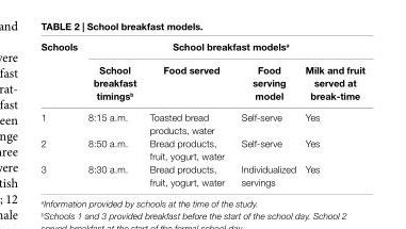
<table><thead><tr><td rowspan="2">schools</td><td colspan="4">school breakfast models<sup>a</sup></td></tr><tr><td>school breakfast timings<sup>b</sup></td><td>Food served</td><td>Food serving model</td><td>Milk and fruit served at break-time</td></tr></thead><tbody><tr><td>1</td><td>8:15 a.m.</td><td>Toasted bread products, water</td><td>Self-serve</td><td>Yes</td></tr><tr><td>2</td><td>8:50 a.m.</td><td>Bread products, fruit, yogurt, water</td><td>Self-serve</td><td>Yes</td></tr><tr><td>3</td><td>8:30 a.m.</td><td>Bread products, fruit, yogurt, water</td><td>Individualized servings</td><td>Yes</td></tr></tbody></table>